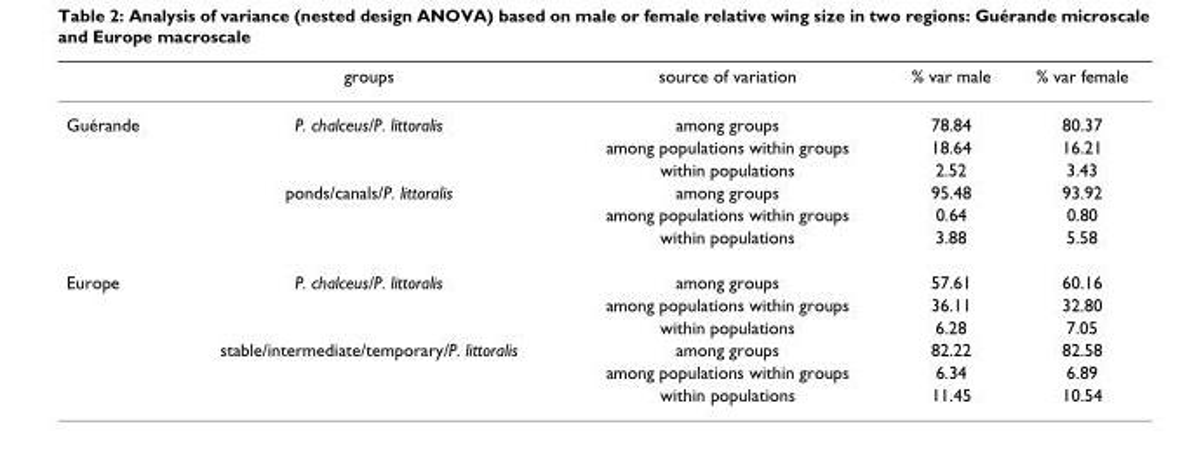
<table><thead><tr><td></td><td>groups</td><td>source of variation</td><td>% var male</td><td>% var female</td></tr></thead><tbody><tr><td rowspan="6">Guérande</td><td>P. chalceus/P. littoralis</td><td>among groups</td><td>78.84</td><td>80.37</td></tr><tr><td></td><td>among populations within groups</td><td>18.64</td><td>16.21</td></tr><tr><td></td><td>within populations</td><td>2.52</td><td>3.43</td></tr><tr><td>ponds/canals/P. littoralis</td><td>among groups</td><td>95.48</td><td>93.92</td></tr><tr><td></td><td>among populations within groups</td><td>0.64</td><td>0.80</td></tr><tr><td></td><td>within populations</td><td>3.88</td><td>5.58</td></tr><tr><td rowspan="6">Europe</td><td>P. chalceus/P. littoralis</td><td>among groups</td><td>57.61</td><td>60.16</td></tr><tr><td></td><td>among populations within groups</td><td>36.11</td><td>32.80</td></tr><tr><td></td><td>within populations</td><td>6.28</td><td>7.05</td></tr><tr><td>stable/intermediate/temporary/P. littoralis</td><td>among groups</td><td>82.22</td><td>82.58</td></tr><tr><td></td><td>among populations within groups</td><td>6.34</td><td>6.89</td></tr><tr><td></td><td>within populations</td><td>11.45</td><td>10.54</td></tr></tbody></table>